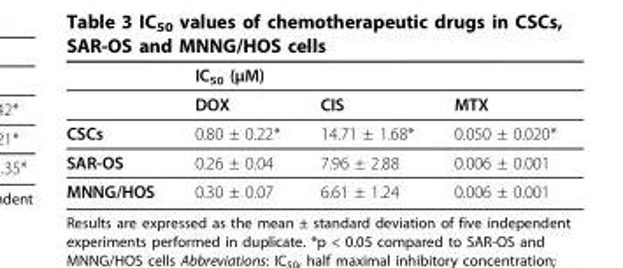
<table><thead><tr><td></td><td>IC<sub>50</sub> (μM)</td><td></td><td></td></tr></thead><tbody><tr><td></td><td>DOX</td><td>CIS</td><td>MTX</td></tr><tr><td>CSCs</td><td>0.80 ± 0.22*</td><td>14.71 ± 1.68*</td><td>0.050 ± 0.020*</td></tr><tr><td>SAR-OS</td><td>0.26 ± 0.04</td><td>7.96 ± 2.88</td><td>0.006 ± 0.001</td></tr><tr><td>MNNG/HOS</td><td>0.30 ± 0.07</td><td>6.61 ± 1.24</td><td>0.006 ± 0.001</td></tr></tbody></table>